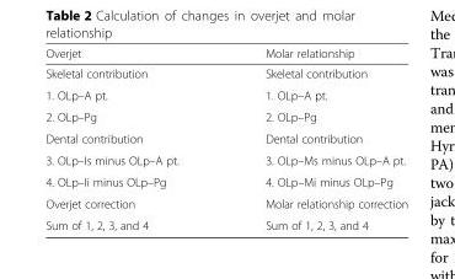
<table><thead><tr><td>Overjet</td><td>Molar relationship</td></tr></thead><tbody><tr><td>Skeletal contribution</td><td>Skeletal contribution</td></tr><tr><td>1. OLp–A pt.</td><td>1. OLp–A pt.</td></tr><tr><td>2. OLp–Pg</td><td>2. OLp–Pg</td></tr><tr><td>Dental contribution</td><td>Dental contribution</td></tr><tr><td>3. OLp–Is minus OLp–A pt.</td><td>3. OLp–Ms minus OLp–A pt.</td></tr><tr><td>4. OLp–Ii minus OLp–Pg</td><td>4. OLp–Mi minus OLp–Pg</td></tr><tr><td>Overjet correction</td><td>Molar relationship correction</td></tr><tr><td>Sum of 1, 2, 3, and 4</td><td>Sum of 1, 2, 3, and 4</td></tr></tbody></table>